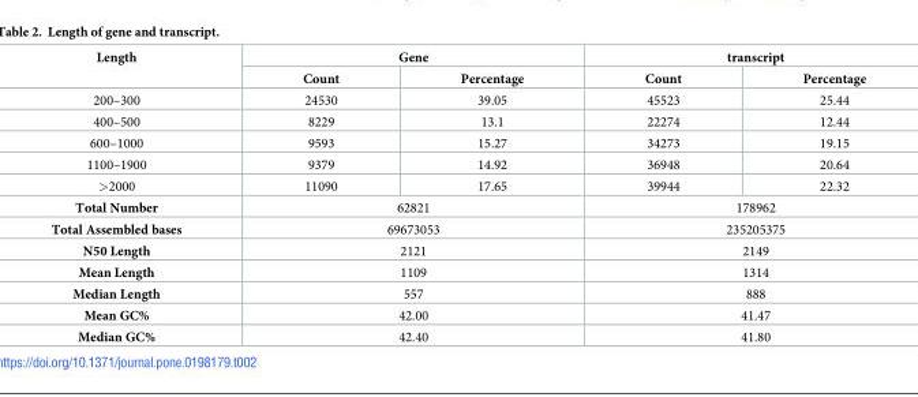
<table><thead><tr><td rowspan="2">Length</td><td colspan="2">Gene</td><td colspan="2">transcript</td></tr><tr><td>Count</td><td>Percentage</td><td>Count</td><td>Percentage</td></tr></thead><tbody><tr><td>200–300</td><td>24530</td><td>39.05</td><td>45523</td><td>25.44</td></tr><tr><td>400–500</td><td>8229</td><td>13.1</td><td>22274</td><td>12.44</td></tr><tr><td>600–1000</td><td>9593</td><td>15.27</td><td>34273</td><td>19.15</td></tr><tr><td>1100–1900</td><td>9379</td><td>14.92</td><td>36948</td><td>20.64</td></tr><tr><td>&gt;2000</td><td>11090</td><td>17.65</td><td>39944</td><td>22.32</td></tr><tr><td>Total Number</td><td colspan="2">62821</td><td colspan="2">178962</td></tr><tr><td>Total Assembled bases</td><td colspan="2">69673053</td><td colspan="2">235205375</td></tr><tr><td>N50 Length</td><td colspan="2">2121</td><td colspan="2">2149</td></tr><tr><td>Mean Length</td><td colspan="2">1109</td><td colspan="2">1314</td></tr><tr><td>Median Length</td><td colspan="2">557</td><td colspan="2">888</td></tr><tr><td>Mean GC%</td><td colspan="2">42.00</td><td colspan="2">41.47</td></tr><tr><td>Median GC%</td><td colspan="2">42.40</td><td colspan="2">41.80</td></tr></tbody></table>